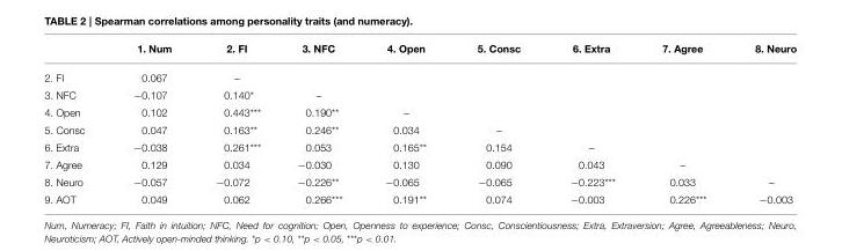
<table><thead><tr><td></td><td>1. Num</td><td>2. FI</td><td>3. NFC</td><td>4. Open</td><td>5. Consc</td><td>6. Extra</td><td>7. Agree</td><td>8. Neuro</td></tr></thead><tbody><tr><td>2. FI</td><td>0.067</td><td>–</td><td></td><td></td><td></td><td></td><td></td><td></td></tr><tr><td>3. NFC</td><td>−0.107</td><td>0.140*</td><td>–</td><td></td><td></td><td></td><td></td><td></td></tr><tr><td>4. Open</td><td>0.102</td><td>0.443***</td><td>0.190**</td><td>–</td><td></td><td></td><td></td><td></td></tr><tr><td>5. Consc</td><td>0.047</td><td>0.163**</td><td>0.246**</td><td>0.034</td><td>–</td><td></td><td></td><td></td></tr><tr><td>6. Extra</td><td>−0.038</td><td>0.261***</td><td>0.053</td><td>0.165**</td><td>0.154</td><td>–</td><td></td><td></td></tr><tr><td>7. Agree</td><td>0.129</td><td>0.034</td><td>−0.030</td><td>0.130</td><td>0.090</td><td>0.043</td><td>–</td><td></td></tr><tr><td>8. Neuro</td><td>−0.057</td><td>−0.072</td><td>−0.226**</td><td>−0.065</td><td>−0.065</td><td>−0.223***</td><td>0.033</td><td>–</td></tr><tr><td>9. AOT</td><td>0.049</td><td>0.062</td><td>0.266***</td><td>0.191**</td><td>0.074</td><td>−0.003</td><td>0.226***</td><td>−0.003</td></tr></tbody></table>